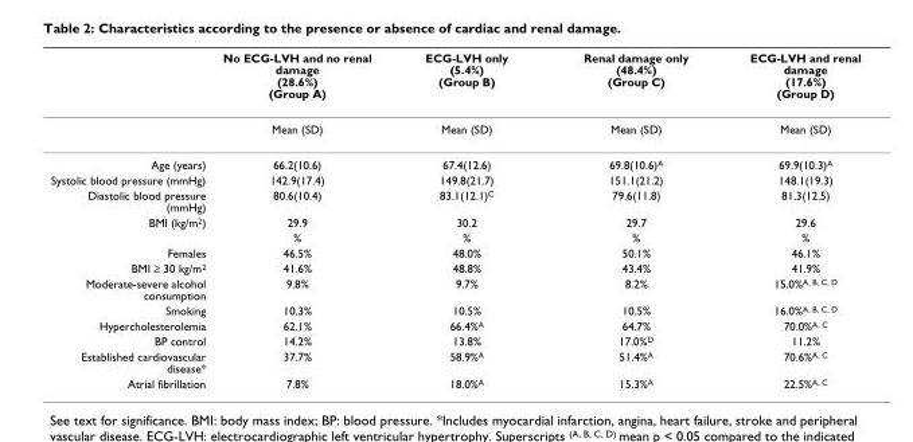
<table><thead><tr><td></td><td>No ECG-LVH and no renal damage (28.6%) (Group A)</td><td>ECG-LVH only (5.4%) (Group B)</td><td>Renal damage only (48.4%) (Group C)</td><td>ECG-LVH and renal damage (17.6%) (Group D)</td></tr></thead><tbody><tr><td></td><td>Mean (SD)</td><td>Mean (SD)</td><td>Mean (SD)</td><td>Mean (SD)</td></tr><tr><td>Age (years)</td><td>66.2(10.6)</td><td>67.4(12.6)</td><td>69.8(10.6)<sup>A</sup></td><td>69.9(10.3)<sup>A</sup></td></tr><tr><td>Systolic blood pressure (mmHg)</td><td>142.9(17.4)</td><td>149.8(21.7)</td><td>151.1(21.2)</td><td>148.1(19.3)</td></tr><tr><td>Diastolic blood pressure (mmHg)</td><td>80.6(10.4)</td><td>83.1(12.1)<sup>C</sup></td><td>79.6(11.8)</td><td>81.3(12.5)</td></tr><tr><td rowspan="2">BMI (kg/m<sup>2</sup>)</td><td>29.9</td><td>30.2</td><td>29.7</td><td>29.6</td></tr><tr><td>%</td><td>%</td><td>%</td><td>%</td></tr><tr><td>Females</td><td>46.5%</td><td>48.0%</td><td>50.1%</td><td>46.1%</td></tr><tr><td>BMI ≥ 30 kg/m<sup>2</sup></td><td>41.6%</td><td>48.8%</td><td>43.4%</td><td>41.9%</td></tr><tr><td>Moderate-severe alcohol consumption</td><td>9.8%</td><td>9.7%</td><td>8.2%</td><td>15.0%<sup>A, B, C, D</sup></td></tr><tr><td>Smoking</td><td>10.3%</td><td>10.5%</td><td>10.5%</td><td>16.0%<sup>A, B, C, D</sup></td></tr><tr><td>Hypercholesterolemia</td><td>62.1%</td><td>66.4%<sup>A</sup></td><td>64.7%</td><td>70.0%<sup>A, C</sup></td></tr><tr><td>BP control</td><td>14.2%</td><td>13.8%</td><td>17.0%<sup>D</sup></td><td>11.2%</td></tr><tr><td>Established cardiovascular disease*</td><td>37.7%</td><td>58.9%<sup>A</sup></td><td>51.4%<sup>A</sup></td><td>70.6%<sup>A, C</sup></td></tr><tr><td>Atrial fibrillation</td><td>7.8%</td><td>18.0%<sup>A</sup></td><td>15.3%<sup>A</sup></td><td>22.5%<sup>A, C</sup></td></tr></tbody></table>